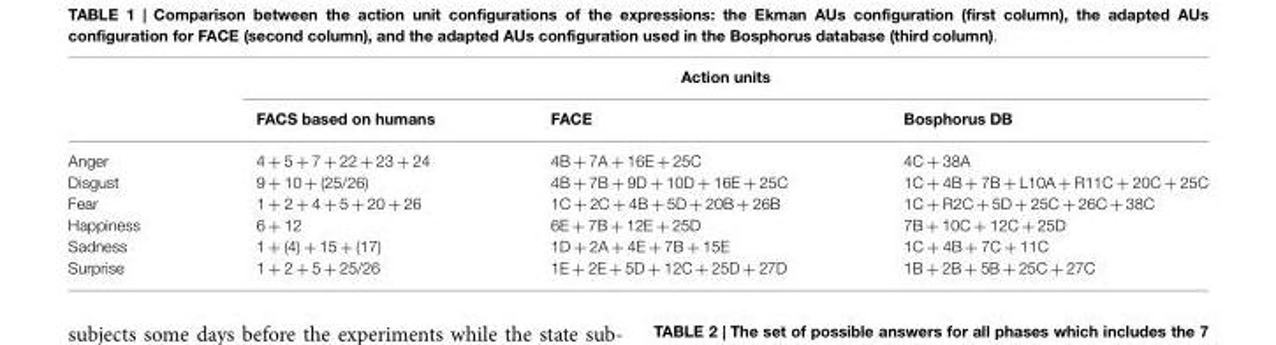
<table><thead><tr><td rowspan="2"></td><td colspan="3">Action units</td></tr><tr><td>FACS based on humans</td><td>FACE</td><td>Bosphorus DB</td></tr></thead><tbody><tr><td>Anger</td><td>4 + 5 + 7 + 22 + 23 + 24</td><td>4B + 7A + 16E + 25C</td><td>4C + 38A</td></tr><tr><td>Disgust</td><td>9 + 10 + (25/26)</td><td>4B + 7B + 9D + 10D + 16E + 25C</td><td>1C + 4B + 7B + L10A + R11C + 20C + 25C</td></tr><tr><td>Fear</td><td>1 + 2 + 4 + 5 + 20 + 26</td><td>1C + 2C + 4B + 5D + 20B + 26B</td><td>1C + R2C + 5D + 25C + 26C + 38C</td></tr><tr><td>Happiness</td><td>6 + 12</td><td>6E + 7B + 12E + 25D</td><td>7B + 10C + 12C + 25D</td></tr><tr><td>Sadness</td><td>1 + (4) + 15 + (17)</td><td>1D + 2A + 4E + 7B + 15E</td><td>1C + 4B + 7C + 11C</td></tr><tr><td>Surprise</td><td>1 + 2 + 5 + 25/26</td><td>1E + 2E + 5D + 12C + 25D + 27D</td><td>1B + 2B + 5B + 25C + 27C</td></tr></tbody></table>